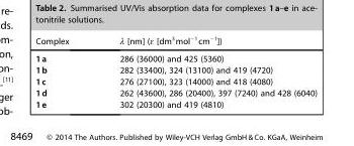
<table><thead><tr><td>Complex</td><td>λ [nm] (ε [dm<sup>3</sup>mol<sup>−1</sup>cm<sup>−1</sup>])</td></tr></thead><tbody><tr><td>1a</td><td>286 (36000) and 425 (5360)</td></tr><tr><td>1b</td><td>282 (33400), 324 (13100) and 419 (4720)</td></tr><tr><td>1c</td><td>276 (27100), 323 (14000) and 418 (4080)</td></tr><tr><td>1d</td><td>262 (43600), 286 (20400), 397 (7240) and 428 (6040)</td></tr><tr><td>1e</td><td>302 (20300) and 419 (4810)</td></tr></tbody></table>